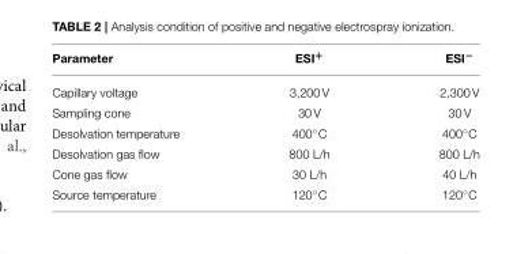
<table><thead><tr><td>Parameter</td><td>ESI<sup>+</sup></td><td>ESI<sup>−</sup></td></tr></thead><tbody><tr><td>Capillary voltage</td><td>3,200 V</td><td>2,300 V</td></tr><tr><td>Sampling cone</td><td>30 V</td><td>30 V</td></tr><tr><td>Desolvation temperature</td><td>400◦C</td><td>400◦C</td></tr><tr><td>Desolvation gas flow</td><td>800 L/h</td><td>800 L/h</td></tr><tr><td>Cone gas flow</td><td>30 L/h</td><td>40 L/h</td></tr><tr><td>Source temperature</td><td>120◦C</td><td>120◦C</td></tr></tbody></table>